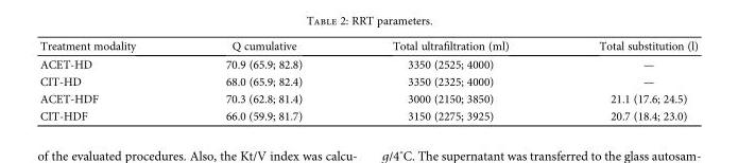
<table><thead><tr><td>Treatment modality</td><td>Q cumulative</td><td>Total ultrafiltration (ml)</td><td>Total substitution (l)</td></tr></thead><tbody><tr><td>ACET-HD</td><td>70.9 (65.9; 82.8)</td><td>3350 (2525; 4000)</td><td>—</td></tr><tr><td>CIT-HD</td><td>68.0 (65.9; 82.4)</td><td>3350 (2325; 4000)</td><td>—</td></tr><tr><td>ACET-HDF</td><td>70.3 (62.8; 81.4)</td><td>3000 (2150; 3850)</td><td>21.1 (17.6; 24.5)</td></tr><tr><td>CIT-HDF</td><td>66.0 (59.9; 81.7)</td><td>3150 (2275; 3925)</td><td>20.7 (18.4; 23.0)</td></tr></tbody></table>